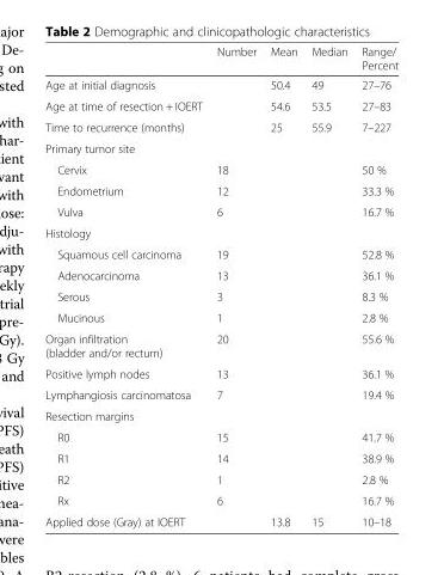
<table><thead><tr><td></td><td>Number</td><td>Mean</td><td>Median</td><td>Range/ Percent</td></tr></thead><tbody><tr><td>Age at initial diagnosis</td><td></td><td>50.4</td><td>49</td><td>27–76</td></tr><tr><td>Age at time of resection + IOERT</td><td></td><td>54.6</td><td>53.5</td><td>27–83</td></tr><tr><td>Time to recurrence (months)</td><td></td><td>25</td><td>55.9</td><td>7–227</td></tr><tr><td colspan="5">Primary tumor site</td></tr><tr><td>Cervix</td><td>18</td><td></td><td></td><td>50 %</td></tr><tr><td>Endometrium</td><td>12</td><td></td><td></td><td>33.3 %</td></tr><tr><td>Vulva</td><td>6</td><td></td><td></td><td>16.7 %</td></tr><tr><td colspan="5">Histology</td></tr><tr><td>Squamous cell carcinoma</td><td>19</td><td></td><td></td><td>52.8 %</td></tr><tr><td>Adenocarcinoma</td><td>13</td><td></td><td></td><td>36.1 %</td></tr><tr><td>Serous</td><td>3</td><td></td><td></td><td>8.3 %</td></tr><tr><td>Mucinous</td><td>1</td><td></td><td></td><td>2.8 %</td></tr><tr><td>Organ infiltration (bladder and/or rectum)</td><td>20</td><td></td><td></td><td>55.6 %</td></tr><tr><td>Positive lymph nodes</td><td>13</td><td></td><td></td><td>36.1 %</td></tr><tr><td>Lymphangiosis carcinomatosa</td><td>7</td><td></td><td></td><td>19.4 %</td></tr><tr><td colspan="5">Resection margins</td></tr><tr><td>R0</td><td>15</td><td></td><td></td><td>41.7 %</td></tr><tr><td>R1</td><td>14</td><td></td><td></td><td>38.9 %</td></tr><tr><td>R2</td><td>1</td><td></td><td></td><td>2.8 %</td></tr><tr><td>Rx</td><td>6</td><td></td><td></td><td>16.7 %</td></tr><tr><td>Applied dose (Gray) at IOERT</td><td></td><td>13.8</td><td>15</td><td>10–18</td></tr></tbody></table>